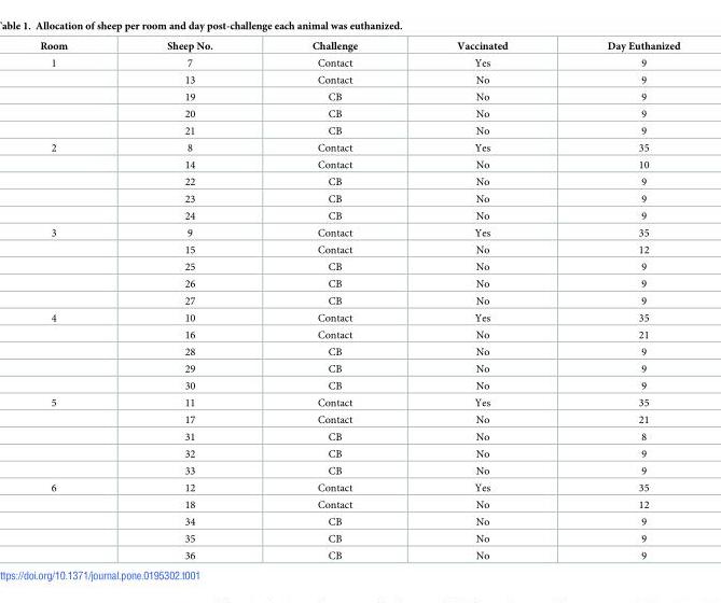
<table><thead><tr><td>Room</td><td>Sheep No.</td><td>Challenge</td><td>Vaccinated</td><td>Day Euthanized</td></tr></thead><tbody><tr><td rowspan="5">1</td><td>7</td><td>Contact</td><td>Yes</td><td>9</td></tr><tr><td>13</td><td>Contact</td><td>No</td><td>9</td></tr><tr><td>19</td><td>CB</td><td>No</td><td>9</td></tr><tr><td>20</td><td>CB</td><td>No</td><td>9</td></tr><tr><td>21</td><td>CB</td><td>No</td><td>9</td></tr><tr><td rowspan="5">2</td><td>8</td><td>Contact</td><td>Yes</td><td>35</td></tr><tr><td>14</td><td>Contact</td><td>No</td><td>10</td></tr><tr><td>22</td><td>CB</td><td>No</td><td>9</td></tr><tr><td>23</td><td>CB</td><td>No</td><td>9</td></tr><tr><td>24</td><td>CB</td><td>No</td><td>9</td></tr><tr><td rowspan="5">3</td><td>9</td><td>Contact</td><td>Yes</td><td>35</td></tr><tr><td>15</td><td>Contact</td><td>No</td><td>12</td></tr><tr><td>25</td><td>CB</td><td>No</td><td>9</td></tr><tr><td>26</td><td>CB</td><td>No</td><td>9</td></tr><tr><td>27</td><td>CB</td><td>No</td><td>9</td></tr><tr><td rowspan="5">4</td><td>10</td><td>Contact</td><td>Yes</td><td>35</td></tr><tr><td>16</td><td>Contact</td><td>No</td><td>21</td></tr><tr><td>28</td><td>CB</td><td>No</td><td>9</td></tr><tr><td>29</td><td>CB</td><td>No</td><td>9</td></tr><tr><td>30</td><td>CB</td><td>No</td><td>9</td></tr><tr><td rowspan="5">5</td><td>11</td><td>Contact</td><td>Yes</td><td>35</td></tr><tr><td>17</td><td>Contact</td><td>No</td><td>21</td></tr><tr><td>31</td><td>CB</td><td>No</td><td>8</td></tr><tr><td>32</td><td>CB</td><td>No</td><td>9</td></tr><tr><td>33</td><td>CB</td><td>No</td><td>9</td></tr><tr><td rowspan="5">6</td><td>12</td><td>Contact</td><td>Yes</td><td>35</td></tr><tr><td>18</td><td>Contact</td><td>No</td><td>12</td></tr><tr><td>34</td><td>CB</td><td>No</td><td>9</td></tr><tr><td>35</td><td>CB</td><td>No</td><td>9</td></tr><tr><td>36</td><td>CB</td><td>No</td><td>9</td></tr></tbody></table>